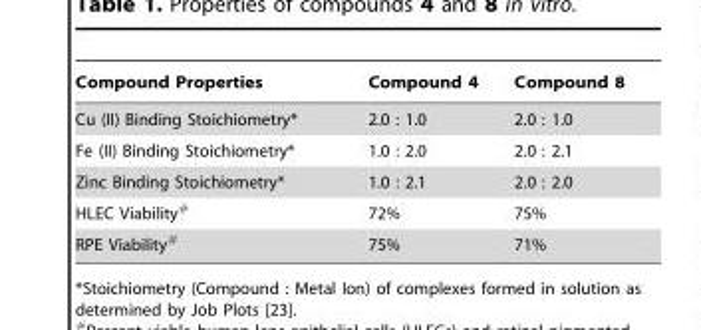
<table><thead><tr><td>Compound Properties</td><td>Compound 4</td><td>Compound 8</td></tr></thead><tbody><tr><td>Cu (II) Binding Stoichiometry*</td><td>2.0 : 1.0</td><td>2.0 : 1.0</td></tr><tr><td>Fe (II) Binding Stoichiometry*</td><td>1.0 : 2.0</td><td>2.0 : 2.1</td></tr><tr><td>Zinc Binding Stoichiometry*</td><td>1.0 : 2.1</td><td>2.0 : 2.0</td></tr><tr><td>HLEC Viability#</td><td>72%</td><td>75%</td></tr><tr><td>RPE Viability#</td><td>75%</td><td>71%</td></tr></tbody></table>